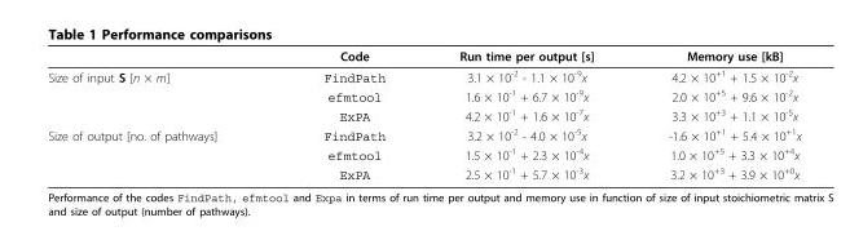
<table><thead><tr><td></td><td>Code</td><td>Run time per output [s]</td><td>Memory use [kB]</td></tr></thead><tbody><tr><td rowspan="3">Size of input S [n × m]</td><td>FindPath</td><td>3.1 × 10<sup>-2</sup> - 1.1 × 10<sup>-9</sup>x</td><td>4.2 × 10<sup>+1</sup> + 1.5 × 10<sup>-2</sup>x</td></tr><tr><td>efmtool</td><td>1.6 × 10<sup>-1</sup> + 6.7 × 10<sup>-9</sup>x</td><td>2.0 × 10<sup>+5</sup> + 9.6 × 10<sup>-2</sup>x</td></tr><tr><td>ExPA</td><td>4.2 × 10<sup>-1</sup> + 1.6 × 10<sup>-7</sup>x</td><td>3.3 × 10<sup>+3</sup> + 1.1 × 10<sup>-5</sup>x</td></tr><tr><td rowspan="3">Size of output [no. of pathways]</td><td>FindPath</td><td>3.2 × 10<sup>-2</sup> - 4.0 × 10<sup>-5</sup>x</td><td>-1.6 × 10<sup>+1</sup> + 5.4 × 10<sup>+1</sup>x</td></tr><tr><td>efmtool</td><td>1.5 × 10<sup>-1</sup> + 2.3 × 10<sup>-4</sup>x</td><td>1.0 × 10<sup>+5</sup> + 3.3 × 10<sup>+4</sup>x</td></tr><tr><td>ExPA</td><td>2.5 × 10<sup>-1</sup> + 5.7 × 10<sup>-3</sup>x</td><td>3.2 × 10<sup>+3</sup> + 3.9 × 10<sup>+0</sup>x</td></tr></tbody></table>